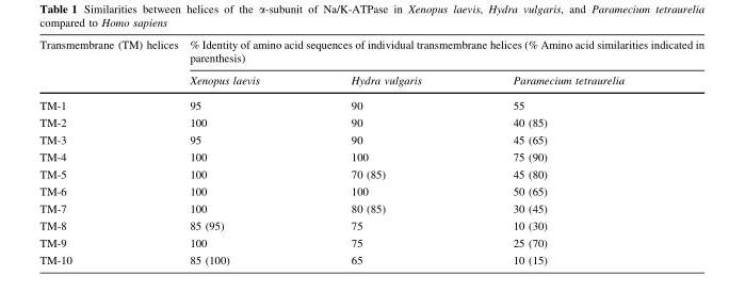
<table><thead><tr><td rowspan="2">Transmembrane (TM) helices</td><td colspan="3">% Identity of amino acid sequences of individual transmembrane helices (% Amino acid similarities indicated in parenthesis)</td></tr><tr><td>Xenopus laevis</td><td>Hydra vulgaris</td><td>Paramecium tetraurelia</td></tr></thead><tbody><tr><td>TM-1</td><td>95</td><td>90</td><td>55</td></tr><tr><td>TM-2</td><td>100</td><td>90</td><td>40 (85)</td></tr><tr><td>TM-3</td><td>95</td><td>90</td><td>45 (65)</td></tr><tr><td>TM-4</td><td>100</td><td>100</td><td>75 (90)</td></tr><tr><td>TM-5</td><td>100</td><td>70 (85)</td><td>45 (80)</td></tr><tr><td>TM-6</td><td>100</td><td>100</td><td>50 (65)</td></tr><tr><td>TM-7</td><td>100</td><td>80 (85)</td><td>30 (45)</td></tr><tr><td>TM-8</td><td>85 (95)</td><td>75</td><td>10 (30)</td></tr><tr><td>TM-9</td><td>100</td><td>75</td><td>25 (70)</td></tr><tr><td>TM-10</td><td>85 (100)</td><td>65</td><td>10 (15)</td></tr></tbody></table>